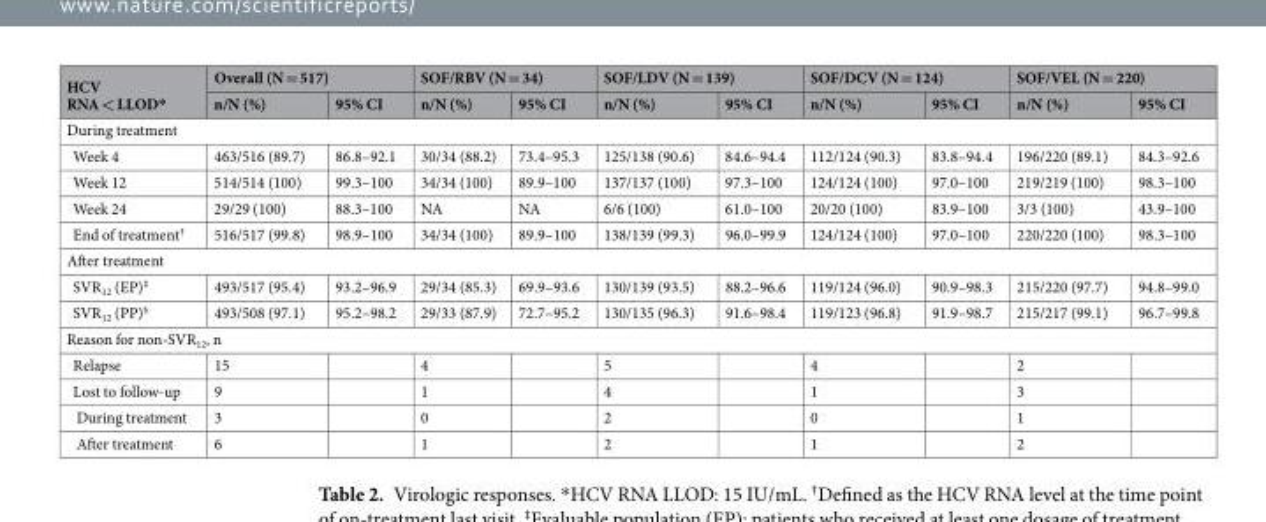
<table><thead><tr><td rowspan="2">HCV RNA &lt; LLOD*</td><td colspan="2">Overall (N = 517)</td><td colspan="2">SOF/RBV (N = 34)</td><td colspan="2">SOF/LDV (N = 139)</td><td colspan="2">SOF/DCV (N = 124)</td><td colspan="2">SOF/VEL (N = 220)</td></tr><tr><td>n/N (%)</td><td>95% CI</td><td>n/N (%)</td><td>95% CI</td><td>n/N (%)</td><td>95% CI</td><td>n/N (%)</td><td>95% CI</td><td>n/N (%)</td><td>95% CI</td></tr></thead><tbody><tr><td colspan="11">During treatment</td></tr><tr><td>Week 4</td><td>463/516 (89.7)</td><td>86.8–92.1</td><td>30/34 (88.2)</td><td>73.4–95.3</td><td>125/138 (90.6)</td><td>84.6–94.4</td><td>112/124 (90.3)</td><td>83.8–94.4</td><td>196/220 (89.1)</td><td>84.3–92.6</td></tr><tr><td>Week 12</td><td>514/514 (100)</td><td>99.3–100</td><td>34/34 (100)</td><td>89.9–100</td><td>137/137 (100)</td><td>97.3–100</td><td>124/124 (100)</td><td>97.0–100</td><td>219/219 (100)</td><td>98.3–100</td></tr><tr><td>Week 24</td><td>29/29 (100)</td><td>88.3–100</td><td>NA</td><td>NA</td><td>6/6 (100)</td><td>61.0–100</td><td>20/20 (100)</td><td>83.9–100</td><td>3/3 (100)</td><td>43.9–100</td></tr><tr><td>End of treatment<sup>†</sup></td><td>516/517 (99.8)</td><td>98.9–100</td><td>34/34 (100)</td><td>89.9–100</td><td>138/139 (99.3)</td><td>96.0–99.9</td><td>124/124 (100)</td><td>97.0–100</td><td>220/220 (100)</td><td>98.3–100</td></tr><tr><td colspan="11">After treatment</td></tr><tr><td>SVR<sub>12</sub> (EP)<sup>‡</sup></td><td>493/517 (95.4)</td><td>93.2–96.9</td><td>29/34 (85.3)</td><td>69.9–93.6</td><td>130/139 (93.5)</td><td>88.2–96.6</td><td>119/124 (96.0)</td><td>90.9–98.3</td><td>215/220 (97.7)</td><td>94.8–99.0</td></tr><tr><td>SVR<sub>12</sub> (PP)<sup>§</sup></td><td>493/508 (97.1)</td><td>95.2–98.2</td><td>29/33 (87.9)</td><td>72.7–95.2</td><td>130/135 (96.3)</td><td>91.6–98.4</td><td>119/123 (96.8)</td><td>91.9–98.7</td><td>215/217 (99.1)</td><td>96.7–99.8</td></tr><tr><td colspan="11">Reason for non-SVR<sub>12</sub>, n</td></tr><tr><td>Relapse</td><td>15</td><td></td><td>4</td><td></td><td>5</td><td></td><td>4</td><td></td><td>2</td><td></td></tr><tr><td>Lost to follow-up</td><td>9</td><td></td><td>1</td><td></td><td>4</td><td></td><td>1</td><td></td><td>3</td><td></td></tr><tr><td>During treatment</td><td>3</td><td></td><td>0</td><td></td><td>2</td><td></td><td>0</td><td></td><td>1</td><td></td></tr><tr><td>After treatment</td><td>6</td><td></td><td>1</td><td></td><td>2</td><td></td><td>1</td><td></td><td>2</td><td></td></tr></tbody></table>